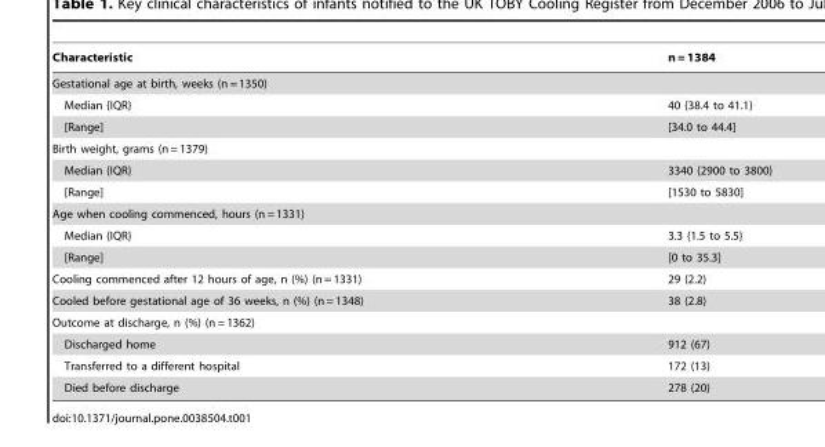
<table><thead><tr><td>Characteristic</td><td>n = 1384</td></tr></thead><tbody><tr><td colspan="2">Gestational age at birth, weeks (n = 1350)</td></tr><tr><td>Median {IQR}</td><td>40 {38.4 to 41.1}</td></tr><tr><td>[Range]</td><td>[34.0 to 44.4]</td></tr><tr><td colspan="2">Birth weight, grams (n = 1379)</td></tr><tr><td>Median {IQR}</td><td>3340 {2900 to 3800}</td></tr><tr><td>[Range]</td><td>[1530 to 5830]</td></tr><tr><td colspan="2">Age when cooling commenced, hours (n = 1331)</td></tr><tr><td>Median {IQR}</td><td>3.3 {1.5 to 5.5}</td></tr><tr><td>[Range]</td><td>[0 to 35.3]</td></tr><tr><td>Cooling commenced after 12 hours of age, n (%) (n = 1331)</td><td>29 (2.2)</td></tr><tr><td>Cooled before gestational age of 36 weeks, n (%) (n = 1348)</td><td>38 (2.8)</td></tr><tr><td colspan="2">Outcome at discharge, n (%) (n = 1362)</td></tr><tr><td>Discharged home</td><td>912 (67)</td></tr><tr><td>Transferred to a different hospital</td><td>172 (13)</td></tr><tr><td>Died before discharge</td><td>278 (20)</td></tr></tbody></table>